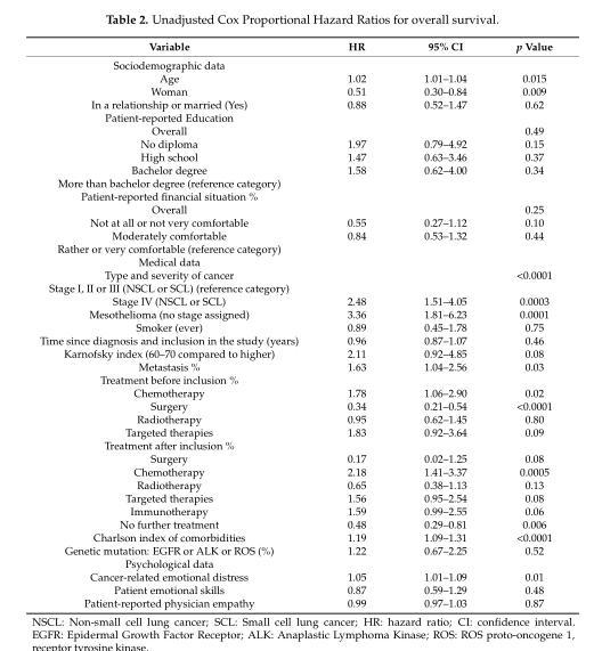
<table><thead><tr><td>Variable</td><td>HR</td><td>95% CI</td><td>p Value</td></tr></thead><tbody><tr><td colspan="4">Sociodemographic data</td></tr><tr><td>Age</td><td>1.02</td><td>1.01–1.04</td><td>0.015</td></tr><tr><td>Woman</td><td>0.51</td><td>0.30–0.84</td><td>0.009</td></tr><tr><td>In a relationship or married (Yes)</td><td>0.88</td><td>0.52–1.47</td><td>0.62</td></tr><tr><td colspan="4">Patient-reported Education</td></tr><tr><td>Overall</td><td></td><td></td><td>0.49</td></tr><tr><td>No diploma</td><td>1.97</td><td>0.79–4.92</td><td>0.15</td></tr><tr><td>High school</td><td>1.47</td><td>0.63–3.46</td><td>0.37</td></tr><tr><td>Bachelor degree</td><td>1.58</td><td>0.62–4.00</td><td>0.34</td></tr><tr><td colspan="4">More than bachelor degree (reference category)</td></tr><tr><td colspan="4">Patient-reported financial situation %</td></tr><tr><td>Overall</td><td></td><td></td><td>0.25</td></tr><tr><td>Not at all or not very comfortable</td><td>0.55</td><td>0.27–1.12</td><td>0.10</td></tr><tr><td>Moderately comfortable</td><td>0.84</td><td>0.53–1.32</td><td>0.44</td></tr><tr><td colspan="4">Rather or very comfortable (reference category)</td></tr><tr><td colspan="4">Medical data</td></tr><tr><td>Type and severity of cancer</td><td></td><td></td><td>&lt;0.0001</td></tr><tr><td colspan="4">Stage I, II or III (NSCL or SCL) (reference category)</td></tr><tr><td>Stage IV (NSCL or SCL)</td><td>2.48</td><td>1.51–4.05</td><td>0.0003</td></tr><tr><td>Mesothelioma (no stage assigned)</td><td>3.36</td><td>1.81–6.23</td><td>0.0001</td></tr><tr><td>Smoker (ever)</td><td>0.89</td><td>0.45–1.78</td><td>0.75</td></tr><tr><td>Time since diagnosis and inclusion in the study (years)</td><td>0.96</td><td>0.87–1.07</td><td>0.46</td></tr><tr><td>Karnofsky index (60–70 compared to higher)</td><td>2.11</td><td>0.92–4.85</td><td>0.08</td></tr><tr><td>Metastasis %</td><td>1.63</td><td>1.04–2.56</td><td>0.03</td></tr><tr><td colspan="4">Treatment before inclusion %</td></tr><tr><td>Chemotherapy</td><td>1.78</td><td>1.06–2.90</td><td>0.02</td></tr><tr><td>Surgery</td><td>0.34</td><td>0.21–0.54</td><td>&lt;0.0001</td></tr><tr><td>Radiotherapy</td><td>0.95</td><td>0.62–1.45</td><td>0.80</td></tr><tr><td>Targeted therapies</td><td>1.83</td><td>0.92–3.64</td><td>0.09</td></tr><tr><td colspan="4">Treatment after inclusion %</td></tr><tr><td>Surgery</td><td>0.17</td><td>0.02–1.25</td><td>0.08</td></tr><tr><td>Chemotherapy</td><td>2.18</td><td>1.41–3.37</td><td>0.0005</td></tr><tr><td>Radiotherapy</td><td>0.65</td><td>0.38–1.13</td><td>0.13</td></tr><tr><td>Targeted therapies</td><td>1.56</td><td>0.95–2.54</td><td>0.08</td></tr><tr><td>Immunotherapy</td><td>1.59</td><td>0.99–2.55</td><td>0.06</td></tr><tr><td>No further treatment</td><td>0.48</td><td>0.29–0.81</td><td>0.006</td></tr><tr><td>Charlson index of comorbidities</td><td>1.19</td><td>1.09–1.31</td><td>&lt;0.0001</td></tr><tr><td>Genetic mutation: EGFR or ALK or ROS (%)</td><td>1.22</td><td>0.67–2.25</td><td>0.52</td></tr><tr><td colspan="4">Psychological data</td></tr><tr><td>Cancer-related emotional distress</td><td>1.05</td><td>1.01–1.09</td><td>0.01</td></tr><tr><td>Patient emotional skills</td><td>0.87</td><td>0.59–1.29</td><td>0.48</td></tr><tr><td>Patient-reported physician empathy</td><td>0.99</td><td>0.97–1.03</td><td>0.87</td></tr></tbody></table>